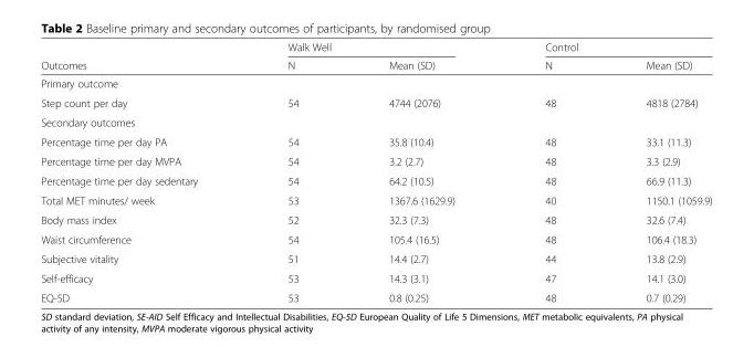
<table><thead><tr><td rowspan="2">Outcomes</td><td colspan="2">Walk Well</td><td colspan="2">Control</td></tr><tr><td>N</td><td>Mean (SD)</td><td>N</td><td>Mean (SD)</td></tr></thead><tbody><tr><td colspan="5">Primary outcome</td></tr><tr><td>Step count per day</td><td>54</td><td>4744 (2076)</td><td>48</td><td>4818 (2784)</td></tr><tr><td colspan="5">Secondary outcomes</td></tr><tr><td>Percentage time per day PA</td><td>54</td><td>35.8 (10.4)</td><td>48</td><td>33.1 (11.3)</td></tr><tr><td>Percentage time per day MVPA</td><td>54</td><td>3.2 (2.7)</td><td>48</td><td>3.3 (2.9)</td></tr><tr><td>Percentage time per day sedentary</td><td>54</td><td>64.2 (10.5)</td><td>48</td><td>66.9 (11.3)</td></tr><tr><td>Total MET minutes/ week</td><td>53</td><td>1367.6 (1629.9)</td><td>40</td><td>1150.1 (1059.9)</td></tr><tr><td>Body mass index</td><td>52</td><td>32.3 (7.3)</td><td>48</td><td>32.6 (7.4)</td></tr><tr><td>Waist circumference</td><td>54</td><td>105.4 (16.5)</td><td>48</td><td>106.4 (18.3)</td></tr><tr><td>Subjective vitality</td><td>51</td><td>14.4 (2.7)</td><td>44</td><td>13.8 (2.9)</td></tr><tr><td>Self-efficacy</td><td>53</td><td>14.3 (3.1)</td><td>47</td><td>14.1 (3.0)</td></tr><tr><td>EQ-5D</td><td>53</td><td>0.8 (0.25)</td><td>48</td><td>0.7 (0.29)</td></tr></tbody></table>